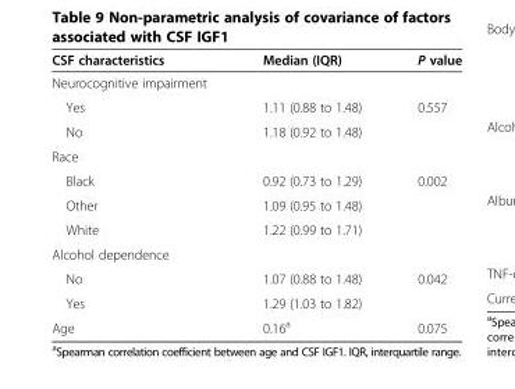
<table><thead><tr><td>CSF characteristics</td><td>Median (IQR)</td><td>P value</td></tr></thead><tbody><tr><td colspan="3">Neurocognitive impairment</td></tr><tr><td>Yes</td><td>1.11 (0.88 to 1.48)</td><td>0.557</td></tr><tr><td>No</td><td>1.18 (0.92 to 1.48)</td><td></td></tr><tr><td colspan="3">Race</td></tr><tr><td>Black</td><td>0.92 (0.73 to 1.29)</td><td>0.002</td></tr><tr><td>Other</td><td>1.09 (0.95 to 1.48)</td><td></td></tr><tr><td>White</td><td>1.22 (0.99 to 1.71)</td><td></td></tr><tr><td colspan="3">Alcohol dependence</td></tr><tr><td>No</td><td>1.07 (0.88 to 1.48)</td><td>0.042</td></tr><tr><td>Yes</td><td>1.29 (1.03 to 1.82)</td><td></td></tr><tr><td>Age</td><td>0.16<sup>a</sup></td><td>0.075</td></tr></tbody></table>